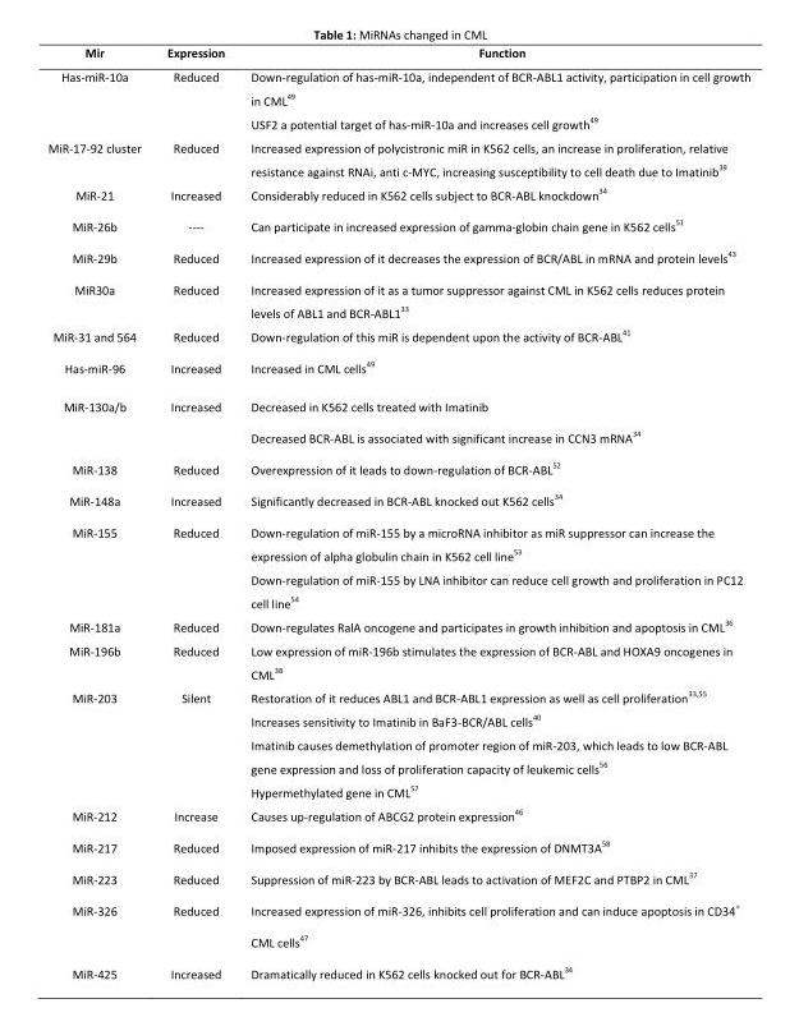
<table><thead><tr><td>Mir</td><td>Expression</td><td>Function</td></tr></thead><tbody><tr><td>Has-miR-10a</td><td>Reduced</td><td>Down-regulation of has-miR-10a, independent of BCR-ABL1 activity, participation in cell growth in CML<sup>49</sup> USF2 a potential target of has-miR-10a and increases cell growth<sup>49</sup></td></tr><tr><td>MiR-17-92 cluster</td><td>Reduced</td><td>Increased expression of polycistronic miR in K562 cells, an increase in proliferation, relative resistance against RNAi, anti c-MYC, increasing susceptibility to cell death due to Imatinib<sup>39</sup></td></tr><tr><td>MiR-21</td><td>Increased</td><td>Considerably reduced in K562 cells subject to BCR-ABL knockdown<sup>34</sup></td></tr><tr><td>MiR-26b</td><td>----</td><td>Can participate in increased expression of gamma-globin chain gene in K562 cells<sup>51</sup></td></tr><tr><td>MiR-29b</td><td>Reduced</td><td>Increased expression of it decreases the expression of BCR/ABL in mRNA and protein levels<sup>43</sup></td></tr><tr><td>MiR30a</td><td>Reduced</td><td>Increased expression of it as a tumor suppressor against CML in K562 cells reduces protein levels of ABL1 and BCR-ABL1<sup>33</sup></td></tr><tr><td>MiR-31 and 564</td><td>Reduced</td><td>Down-regulation of this miR is dependent upon the activity of BCR-ABL<sup>41</sup></td></tr><tr><td>Has-miR-96</td><td>Increased</td><td>Increased in CML cells<sup>49</sup></td></tr><tr><td>MiR-130a/b</td><td>Increased</td><td>Decreased in K562 cells treated with Imatinib Decreased BCR-ABL is associated with significant increase in CCN3 mRNA<sup>34</sup></td></tr><tr><td>MiR-138</td><td>Reduced</td><td>Overexpression of it leads to down-regulation of BCR-ABL<sup>52</sup></td></tr><tr><td>MiR-148a</td><td>Increased</td><td>Significantly decreased in BCR-ABL knocked out K562 cells<sup>34</sup></td></tr><tr><td>MiR-155</td><td>Reduced</td><td>Down-regulation of miR-155 by a microRNA inhibitor as miR suppressor can increase the expression of alpha globulin chain in K562 cell line<sup>53</sup> Down-regulation of miR-155 by LNA inhibitor can reduce cell growth and proliferation in PC12 cell line<sup>54</sup></td></tr><tr><td>MiR-181a</td><td>Reduced</td><td>Down-regulates RalA oncogene and participates in growth inhibition and apoptosis in CML<sup>36</sup></td></tr><tr><td>MiR-196b</td><td>Reduced</td><td>Low expression of miR-196b stimulates the expression of BCR-ABL and HOXA9 oncogenes in CML<sup>38</sup></td></tr><tr><td>MiR-203</td><td>Silent</td><td>Restoration of it reduces ABL1 and BCR-ABL1 expression as well as cell proliferation<sup>33,55</sup> Increases sensitivity to Imatinib in BaF3-BCR/ABL cells<sup>40</sup> Imatinib causes demethylation of promoter region of miR-203, which leads to low BCR-ABL gene expression and loss of proliferation capacity of leukemic cells<sup>56</sup> Hypermethylated gene in CML<sup>57</sup></td></tr><tr><td>MiR-212</td><td>Increase</td><td>Causes up-regulation of ABCG2 protein expression<sup>46</sup></td></tr><tr><td>MiR-217</td><td>Reduced</td><td>Imposed expression of miR-217 inhibits the expression of DNMT3A<sup>58</sup></td></tr><tr><td>MiR-223</td><td>Reduced</td><td>Suppression of miR-223 by BCR-ABL leads to activation of MEF2C and PTBP2 in CML<sup>37</sup></td></tr><tr><td>MiR-326</td><td>Reduced</td><td>Increased expression of miR-326, inhibits cell proliferation and can induce apoptosis in CD34<sup>+</sup> CML cells<sup>47</sup></td></tr><tr><td>MiR-425</td><td>Increased</td><td>Dramatically reduced in K562 cells knocked out for BCR-ABL<sup>34</sup></td></tr></tbody></table>